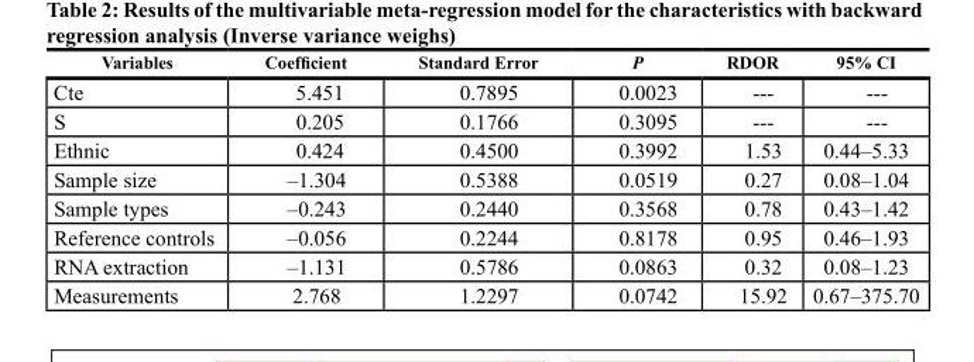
<table><thead><tr><td>Variables</td><td>Coefficient</td><td>standard Error</td><td>P</td><td>RDOR</td><td>95% CI</td></tr></thead><tbody><tr><td>Cte</td><td>5.451</td><td>0.7895</td><td>0.0023</td><td>---</td><td>---</td></tr><tr><td>S</td><td>0.205</td><td>0.1766</td><td>0.3095</td><td>---</td><td>---</td></tr><tr><td>Ethnic</td><td>0.424</td><td>0.4500</td><td>0.3992</td><td>1.53</td><td>0.44–5.33</td></tr><tr><td>Sample size</td><td>–1.304</td><td>0.5388</td><td>0.0519</td><td>0.27</td><td>0.08–1.04</td></tr><tr><td>Sample types</td><td>–0.243</td><td>0.2440</td><td>0.3568</td><td>0.78</td><td>0.43–1.42</td></tr><tr><td>Reference controls</td><td>–0.056</td><td>0.2244</td><td>0.8178</td><td>0.95</td><td>0.46–1.93</td></tr><tr><td>RNA extraction</td><td>–1.131</td><td>0.5786</td><td>0.0863</td><td>0.32</td><td>0.08–1.23</td></tr><tr><td>Measurements</td><td>2.768</td><td>1.2297</td><td>0.0742</td><td>15.92</td><td>0.67–375.70</td></tr></tbody></table>